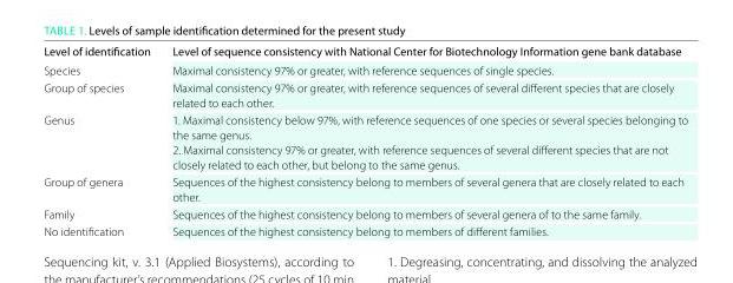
<table><thead><tr><td>level of identification</td><td>level of sequence consistency with national Center for Biotechnology information gene bank database</td></tr></thead><tbody><tr><td>Species</td><td>Maximal consistency 97% or greater, with reference sequences of single species.</td></tr><tr><td>Group of species</td><td>Maximal consistency 97% or greater, with reference sequences of several different species that are closely related to each other.</td></tr><tr><td>Genus</td><td>1. Maximal consistency below 97%, with reference sequences of one species or several species belonging to the same genus. 2. Maximal consistency 97% or greater, with reference sequences of several different species that are not closely related to each other, but belong to the same genus.</td></tr><tr><td>Group of genera</td><td>Sequences of the highest consistency belong to members of several genera that are closely related to each other.</td></tr><tr><td>Family</td><td>Sequences of the highest consistency belong to members of several genera of to the same family.</td></tr><tr><td>No identification</td><td>Sequences of the highest consistency belong to members of different families.</td></tr></tbody></table>